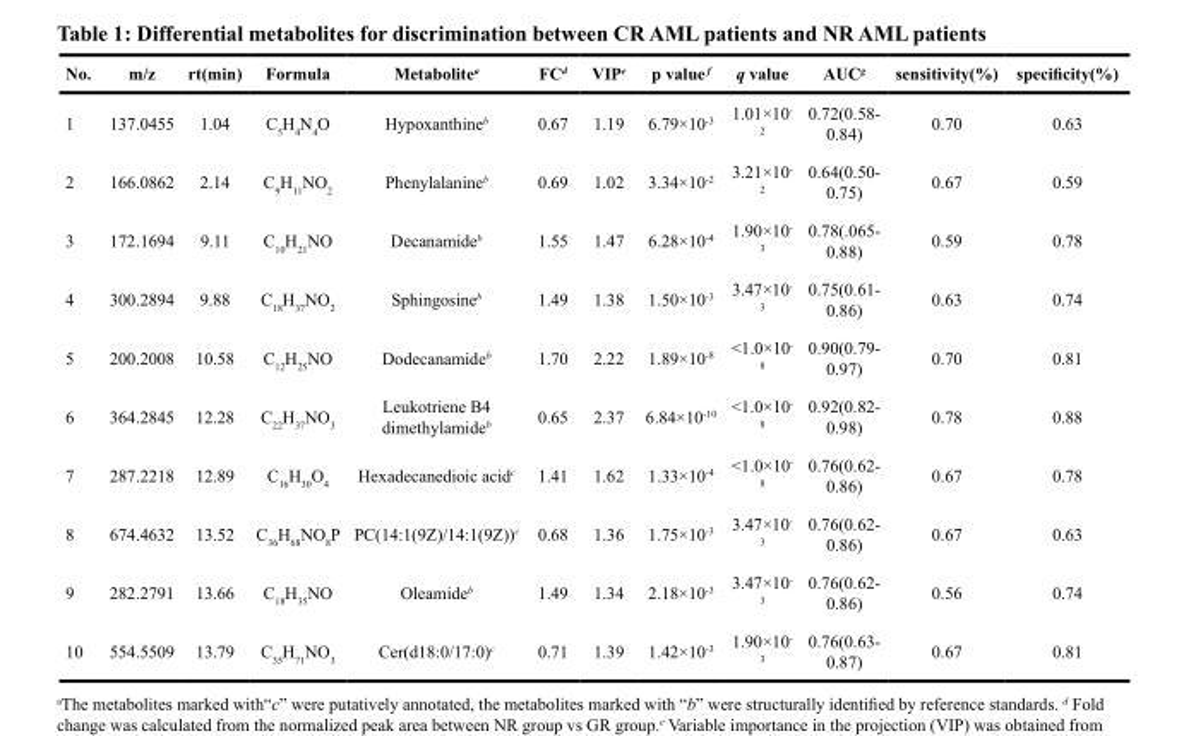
<table><thead><tr><td>No.</td><td>m/z</td><td>rt(min)</td><td>Formula</td><td>Metabolite<sup>a</sup></td><td>FC<sup>d</sup></td><td>VIP<sup>e</sup></td><td>p value <sup>f</sup></td><td>q value</td><td>AUC<sup>g</sup></td><td>sensitivity(%)</td><td>specificity(%)</td></tr></thead><tbody><tr><td>1</td><td>137.0455</td><td>1.04</td><td>C<sub>5</sub>H<sub>4</sub>N<sub>4</sub>O</td><td>Hypoxanthine<sup>b</sup></td><td>0.67</td><td>1.19</td><td>6.79×10<sup>-3</sup></td><td>1.01×10<sup>- 2</sup></td><td>0.72(0.58- 0.84)</td><td>0.70</td><td>0.63</td></tr><tr><td>2</td><td>166.0862</td><td>2.14</td><td>C<sub>9</sub>H<sub>11</sub>NO<sub>2</sub></td><td>Phenylalanine<sup>b</sup></td><td>0.69</td><td>1.02</td><td>3.34×10<sup>-2</sup></td><td>3.21×10<sup>- 2</sup></td><td>0.64(0.50- 0.75)</td><td>0.67</td><td>0.59</td></tr><tr><td>3</td><td>172.1694</td><td>9.11</td><td>C<sub>10</sub>H<sub>21</sub>NO</td><td>Decanamide<sup>b</sup></td><td>1.55</td><td>1.47</td><td>6.28×10<sup>-4</sup></td><td>1.90×10<sup>- 3</sup></td><td>0.78(.065- 0.88)</td><td>0.59</td><td>0.78</td></tr><tr><td>4</td><td>300.2894</td><td>9.88</td><td>C<sub>18</sub>H<sub>37</sub>NO<sub>2</sub></td><td>Sphingosine<sup>b</sup></td><td>1.49</td><td>1.38</td><td>1.50×10<sup>-3</sup></td><td>3.47×10<sup>- 3</sup></td><td>0.75(0.61- 0.86)</td><td>0.63</td><td>0.74</td></tr><tr><td>5</td><td>200.2008</td><td>10.58</td><td>C<sub>12</sub>H<sub>25</sub>NO</td><td>Dodecanamide<sup>b</sup></td><td>1.70</td><td>2.22</td><td>1.89×10<sup>-8</sup></td><td>&lt;1.0×10<sup>- 8</sup></td><td>0.90(0.79- 0.97)</td><td>0.70</td><td>0.81</td></tr><tr><td>6</td><td>364.2845</td><td>12.28</td><td>C<sub>22</sub>H<sub>37</sub>NO<sub>3</sub></td><td>Leukotriene B4 dimethylamide<sup>b</sup></td><td>0.65</td><td>2.37</td><td>6.84×10<sup>-10</sup></td><td>&lt;1.0×10<sup>- 8</sup></td><td>0.92(0.82- 0.98)</td><td>0.78</td><td>0.88</td></tr><tr><td>7</td><td>287.2218</td><td>12.89</td><td>C<sub>16</sub>H<sub>30</sub>O<sub>4</sub></td><td>Hexadecanedioic acid<sup>c</sup></td><td>1.41</td><td>1.62</td><td>1.33×10<sup>-4</sup></td><td>&lt;1.0×10<sup>- 8</sup></td><td>0.76(0.62- 0.86)</td><td>0.67</td><td>0.78</td></tr><tr><td>8</td><td>674.4632</td><td>13.52</td><td>C<sub>36</sub>H<sub>68</sub>NO<sub>8</sub>P</td><td>PC(14:1(9Z)/14:1(9Z))<sup>c</sup></td><td>0.68</td><td>1.36</td><td>1.75×10<sup>-3</sup></td><td>3.47×10<sup>- 3</sup></td><td>0.76(0.62- 0.86)</td><td>0.67</td><td>0.63</td></tr><tr><td>9</td><td>282.2791</td><td>13.66</td><td>C<sub>18</sub>H<sub>35</sub>NO</td><td>Oleamide<sup>b</sup></td><td>1.49</td><td>1.34</td><td>2.18×10<sup>-3</sup></td><td>3.47×10<sup>- 3</sup></td><td>0.76(0.62- 0.86)</td><td>0.56</td><td>0.74</td></tr><tr><td>10</td><td>554.5509</td><td>13.79</td><td>C<sub>35</sub>H<sub>71</sub>NO<sub>3</sub></td><td>Cer(d18:0/17:0)<sup>c</sup></td><td>0.71</td><td>1.39</td><td>1.42×10<sup>-3</sup></td><td>1.90×10<sup>- 3</sup></td><td>0.76(0.63- 0.87)</td><td>0.67</td><td>0.81</td></tr></tbody></table>